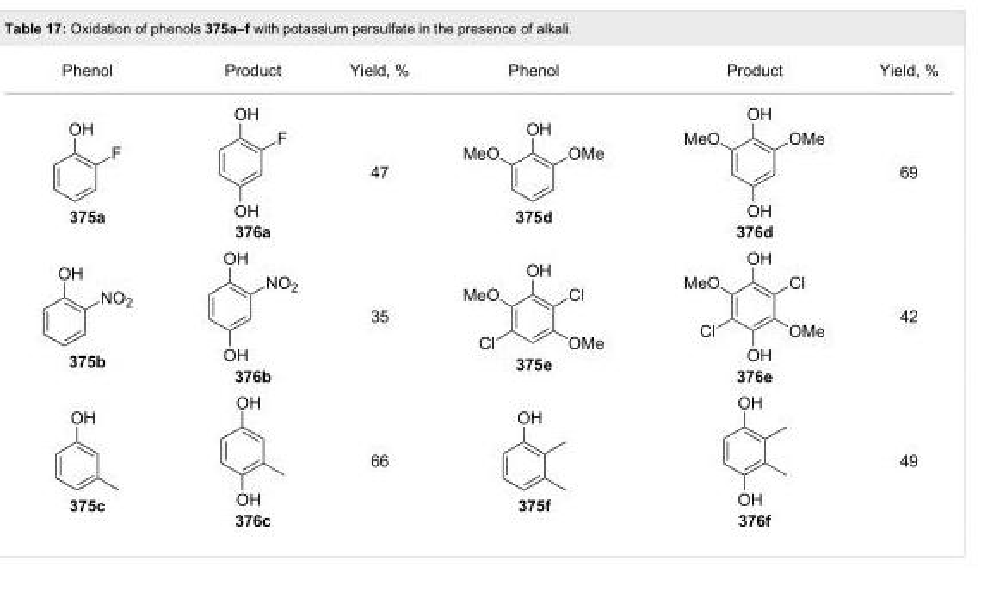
<table><tbody><tr><td>Phenol</td><td>Product</td><td>Yield, %</td><td>Phenol</td><td>Product</td><td>Yield, %</td></tr><tr><td>375a</td><td>376a</td><td>47</td><td>375d</td><td>376d</td><td>69</td></tr><tr><td>375b</td><td>376b</td><td>35</td><td>375e</td><td>376e</td><td>42</td></tr><tr><td>375c</td><td>376c</td><td>66</td><td>375f</td><td>376f</td><td>49</td></tr></tbody></table>